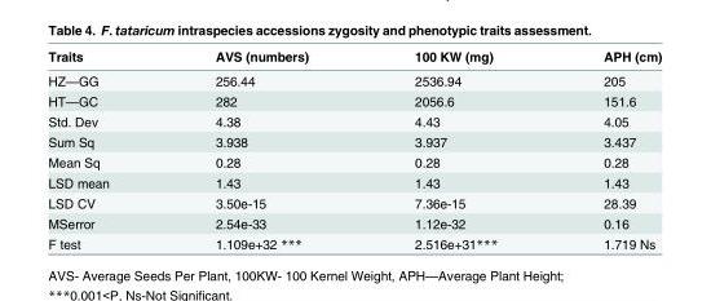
<table><thead><tr><td>Traits</td><td>AVS (numbers)</td><td>100 KW (mg)</td><td>APH (cm)</td></tr></thead><tbody><tr><td>HZ—GG</td><td>256.44</td><td>2536.94</td><td>205</td></tr><tr><td>HT—GC</td><td>282</td><td>2056.6</td><td>151.6</td></tr><tr><td>Std. Dev</td><td>4.38</td><td>4.43</td><td>4.05</td></tr><tr><td>Sum Sq</td><td>3.938</td><td>3.937</td><td>3.437</td></tr><tr><td>Mean Sq</td><td>0.28</td><td>0.28</td><td>0.28</td></tr><tr><td>LSD mean</td><td>1.43</td><td>1.43</td><td>1.43</td></tr><tr><td>LSD CV</td><td>3.50e-15</td><td>7.36e-15</td><td>28.39</td></tr><tr><td>MSerror</td><td>2.54e-33</td><td>1.12e-32</td><td>0.16</td></tr><tr><td>F test</td><td>1.109e+32 ***</td><td>2.516e+31***</td><td>1.719 Ns</td></tr></tbody></table>